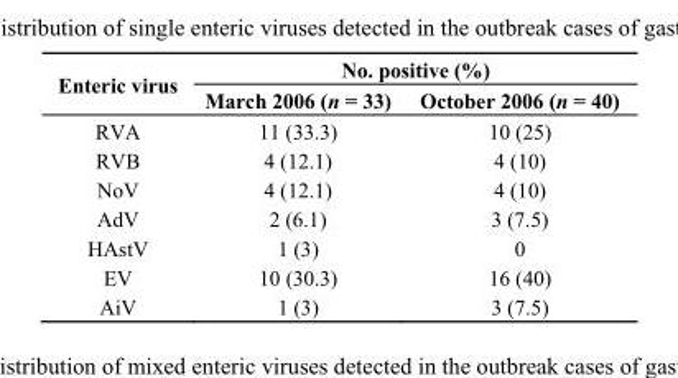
<table><thead><tr><td rowspan="2">Enteric virus</td><td colspan="2">No. positive (%)</td></tr><tr><td>March 2006 (n = 33)</td><td>October 2006 (n = 40)</td></tr></thead><tbody><tr><td>RVA</td><td>11 (33.3)</td><td>10 (25)</td></tr><tr><td>RVB</td><td>4 (12.1)</td><td>4 (10)</td></tr><tr><td>NoV</td><td>4 (12.1)</td><td>4 (10)</td></tr><tr><td>AdV</td><td>2 (6.1)</td><td>3 (7.5)</td></tr><tr><td>HAstV</td><td>1 (3)</td><td>0</td></tr><tr><td>EV</td><td>10 (30.3)</td><td>16 (40)</td></tr><tr><td>AiV</td><td>1 (3)</td><td>3 (7.5)</td></tr></tbody></table>